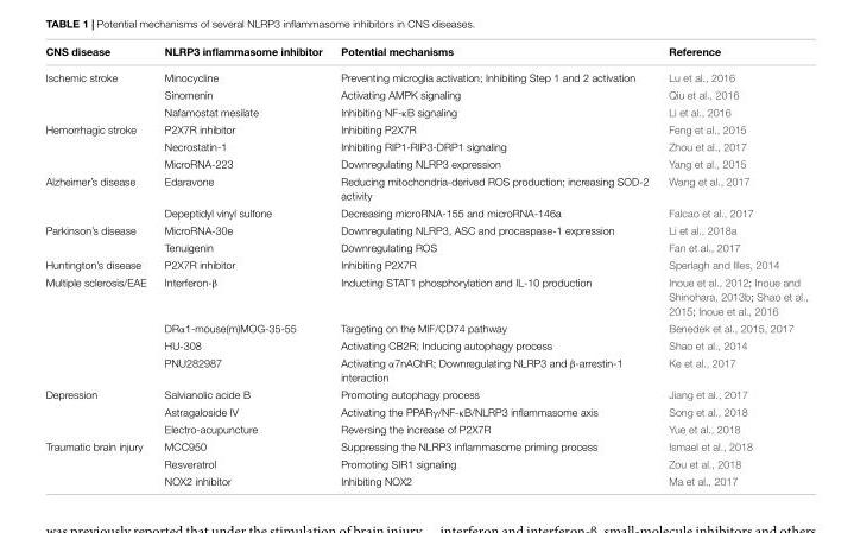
<table><thead><tr><td>CNS disease</td><td>NLRP3 inflammasome inhibitor</td><td>Potential mechanisms</td><td>Reference</td></tr></thead><tbody><tr><td rowspan="3">Ischemic stroke</td><td>Minocycline</td><td>Preventing microglia activation; Inhibiting Step 1 and 2 activation</td><td>Lu et al., 2016</td></tr><tr><td>Sinomenin</td><td>Activating AMPK signaling</td><td>Qiu et al., 2016</td></tr><tr><td>Nafamostat mesilate</td><td>Inhibiting NF-κB signaling</td><td>Li et al., 2016</td></tr><tr><td rowspan="3">Hemorrhagic stroke</td><td>P2X7R inhibitor</td><td>Inhibiting P2X7R</td><td>Feng et al., 2015</td></tr><tr><td>Necrostatin-1</td><td>Inhibiting RIP1-RIP3-DRP1 signaling</td><td>Zhou et al., 2017</td></tr><tr><td>MicroRNA-223</td><td>Downregulating NLRP3 expression</td><td>Yang et al., 2015</td></tr><tr><td rowspan="2">Alzheimer’s disease</td><td>Edaravone</td><td>Reducing mitochondria-derived ROS production; increasing SOD-2 activity</td><td>Wang et al., 2017</td></tr><tr><td>Depeptidyl vinyl sulfone</td><td>Decreasing microRNA-155 and microRNA-146a</td><td>Falcao et al., 2017</td></tr><tr><td rowspan="2">Parkinson’s disease</td><td>MicroRNA-30e</td><td>Downregulating NLRP3, ASC and procaspase-1 expression</td><td>Li et al., 2018a</td></tr><tr><td>Tenuigenin</td><td>Downregulating ROS</td><td>Fan et al., 2017</td></tr><tr><td>Huntington’s disease</td><td>P2X7R inhibitor</td><td>Inhibiting P2X7R</td><td>Sperlagh and Illes, 2014</td></tr><tr><td rowspan="4">Multiple sclerosis/EAE</td><td>Interferon-β</td><td>Inducting STAT1 phosphorylation and IL-10 production</td><td>Inoue et al., 2012; Inoue and Shinohara, 2013b; Shao et al., 2015; Inoue et al., 2016</td></tr><tr><td>DRα1-mouse(m)MOG-35-55</td><td>Targeting on the MIF/CD74 pathway</td><td>Benedek et al., 2015, 2017</td></tr><tr><td>HU-308</td><td>Activating CB2R; Inducing autophagy process</td><td>Shao et al., 2014</td></tr><tr><td>PNU282987</td><td>Activating α7nAChR; Downregulating NLRP3 and β-arrestin-1 interaction</td><td>Ke et al., 2017</td></tr><tr><td rowspan="3">Depression</td><td>Salvianolic acide B</td><td>Promoting autophagy process</td><td>Jiang et al., 2017</td></tr><tr><td>Astragaloside IV</td><td>Activating the PPARγ/NF-κB/NLRP3 inflammasome axis</td><td>Song et al., 2018</td></tr><tr><td>Electro-acupuncture</td><td>Reversing the increase of P2X7R</td><td>Yue et al., 2018</td></tr><tr><td rowspan="3">Traumatic brain injury</td><td>MCC950</td><td>Suppressing the NLRP3 inflammasome priming process</td><td>Ismael et al., 2018</td></tr><tr><td>Resveratrol</td><td>Promoting SIR1 signaling</td><td>Zou et al., 2018</td></tr><tr><td>NOX2 inhibitor</td><td>Inhibiting NOX2</td><td>Ma et al., 2017</td></tr></tbody></table>